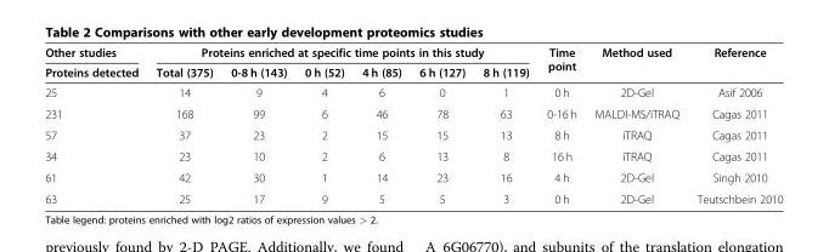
<table><thead><tr><td rowspan="2">Other studies Proteins detected</td><td colspan="6">Proteins enriched at specific time points in this study</td><td rowspan="2">Time point</td><td rowspan="2">Method used</td><td rowspan="2">Reference</td></tr><tr><td>Total (375)</td><td>0-8 h (143)</td><td>0 h (52)</td><td>4 h (85)</td><td>6 h (127)</td><td>8 h (119)</td></tr></thead><tbody><tr><td>25</td><td>14</td><td>9</td><td>4</td><td>6</td><td>0</td><td>1</td><td>0 h</td><td>2D-Gel</td><td>Asif 2006</td></tr><tr><td>231</td><td>168</td><td>99</td><td>6</td><td>46</td><td>78</td><td>63</td><td>0-16 h</td><td>MALDI-MS/iTRAQ</td><td>Cagas 2011</td></tr><tr><td>57</td><td>37</td><td>23</td><td>2</td><td>15</td><td>15</td><td>13</td><td>8 h</td><td>iTRAQ</td><td>Cagas 2011</td></tr><tr><td>34</td><td>23</td><td>10</td><td>2</td><td>6</td><td>13</td><td>8</td><td>16 h</td><td>iTRAQ</td><td>Cagas 2011</td></tr><tr><td>61</td><td>42</td><td>30</td><td>1</td><td>14</td><td>23</td><td>16</td><td>4 h</td><td>2D-Gel</td><td>Singh 2010</td></tr><tr><td>63</td><td>25</td><td>17</td><td>9</td><td>5</td><td>5</td><td>3</td><td>0 h</td><td>2D-Gel</td><td>Teutschbein 2010</td></tr></tbody></table>